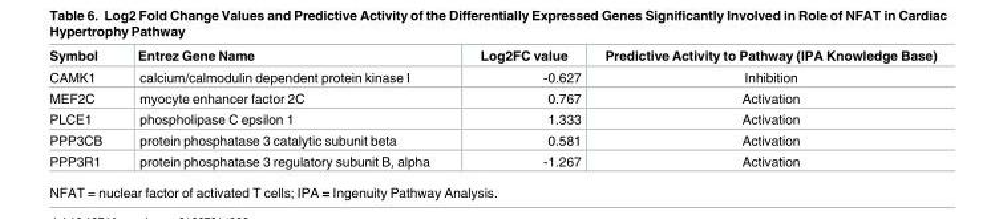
<table><thead><tr><td>Symbol</td><td>Entrez Gene Name</td><td>Log2FC value</td><td>Predictive Activity to Pathway (IPA Knowledge Base)</td></tr></thead><tbody><tr><td>CAMK1</td><td>calcium/calmodulin dependent protein kinase I</td><td>-0.627</td><td>Inhibition</td></tr><tr><td>MEF2C</td><td>myocyte enhancer factor 2C</td><td>0.767</td><td>Activation</td></tr><tr><td>PLCE1</td><td>phospholipase C epsilon 1</td><td>1.333</td><td>Activation</td></tr><tr><td>PPP3CB</td><td>protein phosphatase 3 catalytic subunit beta</td><td>0.581</td><td>Activation</td></tr><tr><td>PPP3R1</td><td>protein phosphatase 3 regulatory subunit B, alpha</td><td>-1.267</td><td>Activation</td></tr></tbody></table>